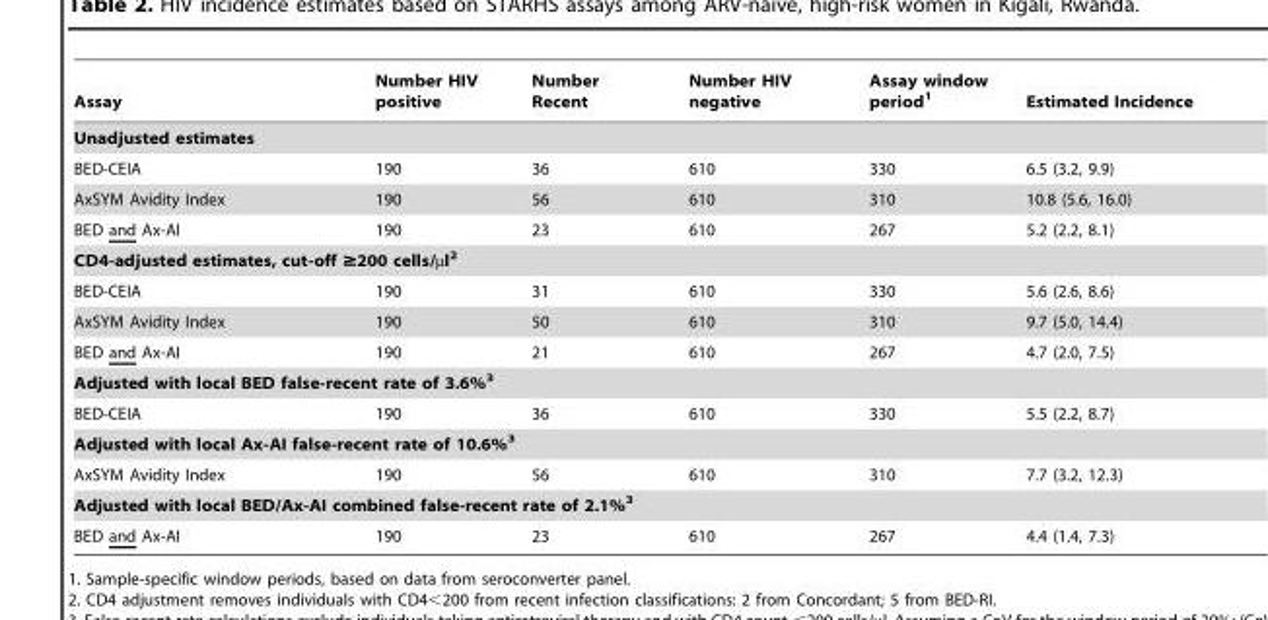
<table><thead><tr><td>Assay</td><td>Number HIV positive</td><td>Number Recent</td><td>Number HIV negative</td><td>Assay window period<sup>1</sup></td><td>Estimated Incidence</td></tr></thead><tbody><tr><td colspan="6">Unadjusted estimates</td></tr><tr><td>BED-CEIA</td><td>190</td><td>36</td><td>610</td><td>330</td><td>6.5 (3.2, 9.9)</td></tr><tr><td>AxSYM Avidity Index</td><td>190</td><td>56</td><td>610</td><td>310</td><td>10.8 (5.6, 16.0)</td></tr><tr><td>BED and Ax-AI</td><td>190</td><td>23</td><td>610</td><td>267</td><td>5.2 (2.2, 8.1)</td></tr><tr><td colspan="6">CD4-adjusted estimates, cut-off ≥200 cells/µl2</td></tr><tr><td>BED-CEIA</td><td>190</td><td>31</td><td>610</td><td>330</td><td>5.6 (2.6, 8.6)</td></tr><tr><td>AxSYM Avidity Index</td><td>190</td><td>50</td><td>610</td><td>310</td><td>9.7 (5.0, 14.4)</td></tr><tr><td>BED and Ax-AI</td><td>190</td><td>21</td><td>610</td><td>267</td><td>4.7 (2.0, 7.5)</td></tr><tr><td colspan="6">Adjusted with local BED false-recent rate of 3.6%3</td></tr><tr><td>BED-CEIA</td><td>190</td><td>36</td><td>610</td><td>330</td><td>5.5 (2.2, 8.7)</td></tr><tr><td colspan="6">Adjusted with local Ax-AI false-recent rate of 10.6%3</td></tr><tr><td>AxSYM Avidity Index</td><td>190</td><td>56</td><td>610</td><td>310</td><td>7.7 (3.2, 12.3)</td></tr><tr><td colspan="6">Adjusted with local BED/Ax-AI combined false-recent rate of 2.1%3</td></tr><tr><td>BED and Ax-AI</td><td>190</td><td>23</td><td>610</td><td>267</td><td>4.4 (1.4, 7.3)</td></tr></tbody></table>